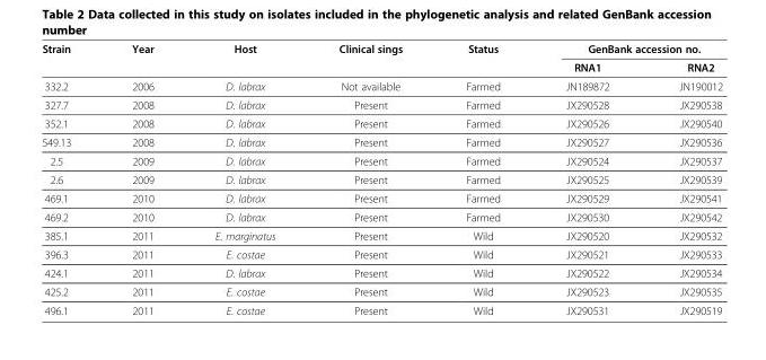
<table><thead><tr><td rowspan="2">Strain</td><td rowspan="2">Year</td><td rowspan="2">Host</td><td rowspan="2">Clinical sings</td><td rowspan="2">Status</td><td colspan="2">GenBank accession no.</td></tr><tr><td>RNA1</td><td>RNA2</td></tr></thead><tbody><tr><td>332.2</td><td>2006</td><td>D. labrax</td><td>Not available</td><td>Farmed</td><td>JN189872</td><td>JN190012</td></tr><tr><td>327.7</td><td>2008</td><td>D. labrax</td><td>Present</td><td>Farmed</td><td>JX290528</td><td>JX290538</td></tr><tr><td>352.1</td><td>2008</td><td>D. labrax</td><td>Present</td><td>Farmed</td><td>JX290526</td><td>JX290540</td></tr><tr><td>549.13</td><td>2008</td><td>D. labrax</td><td>Present</td><td>Farmed</td><td>JX290527</td><td>JX290536</td></tr><tr><td>2.5</td><td>2009</td><td>D. labrax</td><td>Present</td><td>Farmed</td><td>JX290524</td><td>JX290537</td></tr><tr><td>2.6</td><td>2009</td><td>D. labrax</td><td>Present</td><td>Farmed</td><td>JX290525</td><td>JX290539</td></tr><tr><td>469.1</td><td>2010</td><td>D. labrax</td><td>Present</td><td>Farmed</td><td>JX290529</td><td>JX290541</td></tr><tr><td>469.2</td><td>2010</td><td>D. labrax</td><td>Present</td><td>Farmed</td><td>JX290530</td><td>JX290542</td></tr><tr><td>385.1</td><td>2011</td><td>E. marginatus</td><td>Present</td><td>Wild</td><td>JX290520</td><td>JX290532</td></tr><tr><td>396.3</td><td>2011</td><td>E. costae</td><td>Present</td><td>Wild</td><td>JX290521</td><td>JX290533</td></tr><tr><td>424.1</td><td>2011</td><td>D. labrax</td><td>Present</td><td>Wild</td><td>JX290522</td><td>JX290534</td></tr><tr><td>425.2</td><td>2011</td><td>E. costae</td><td>Present</td><td>Wild</td><td>JX290523</td><td>JX290535</td></tr><tr><td>496.1</td><td>2011</td><td>E. costae</td><td>Present</td><td>Wild</td><td>JX290531</td><td>JX290519</td></tr></tbody></table>